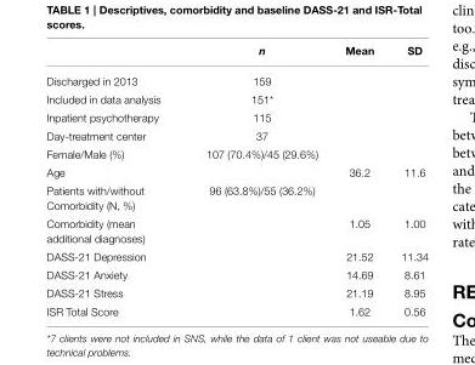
<table><thead><tr><td></td><td>n</td><td>Mean</td><td>SD</td></tr></thead><tbody><tr><td>Discharged in 2013</td><td>159</td><td></td><td></td></tr><tr><td>Included in data analysis</td><td>151*</td><td></td><td></td></tr><tr><td>Inpatient psychotherapy</td><td>115</td><td></td><td></td></tr><tr><td>Day-treatment center</td><td>37</td><td></td><td></td></tr><tr><td>Female/Male (%)</td><td>107 (70.4%)/45 (29.6%)</td><td></td><td></td></tr><tr><td>Age</td><td></td><td>36.2</td><td>11.6</td></tr><tr><td>Patients with/without Comorbidity (N, %)</td><td>96 (63.8%)/55 (36.2%)</td><td></td><td></td></tr><tr><td>Comorbidity (mean additional diagnoses)</td><td></td><td>1.05</td><td>1.00</td></tr><tr><td>DASS-21 Depression</td><td></td><td>21.52</td><td>11.34</td></tr><tr><td>DASS-21 Anxiety</td><td></td><td>14.69</td><td>8.61</td></tr><tr><td>DASS-21 Stress</td><td></td><td>21.19</td><td>8.95</td></tr><tr><td>ISR Total Score</td><td></td><td>1.62</td><td>0.56</td></tr></tbody></table>